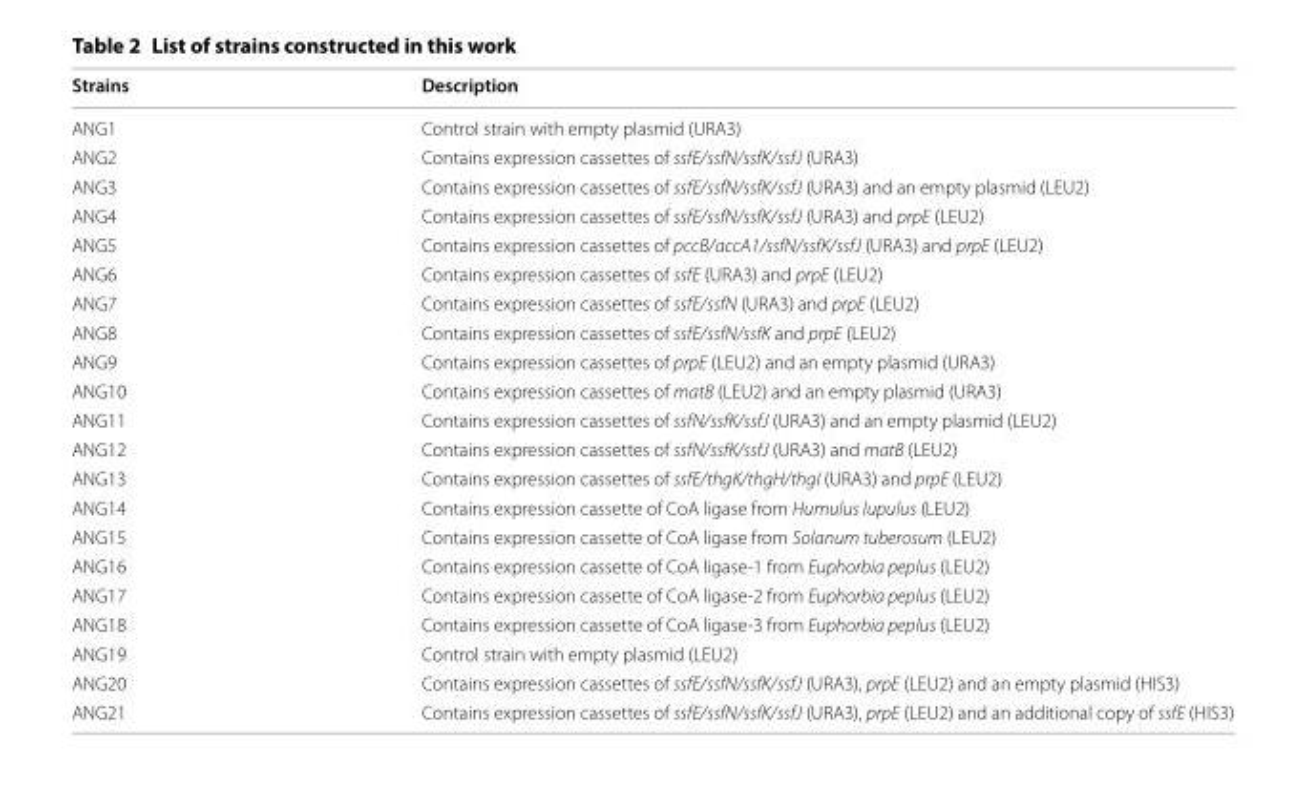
<table><thead><tr><td>Strains</td><td>Description</td></tr></thead><tbody><tr><td>ANG1</td><td>Control strain with empty plasmid (URA3)</td></tr><tr><td>ANG2</td><td>Contains expression cassettes of ssfE/ssfN/ssfK/ssfJ (URA3)</td></tr><tr><td>ANG3</td><td>Contains expression cassettes of ssfE/ssfN/ssfK/ssfJ (URA3) and an empty plasmid (LEU2)</td></tr><tr><td>ANG4</td><td>Contains expression cassettes of ssfE/ssfN/ssfK/ssfJ (URA3) and prpE (LEU2)</td></tr><tr><td>ANG5</td><td>Contains expression cassettes of pccB/accA1/ssfN/ssfK/ssfJ (URA3) and prpE (LEU2)</td></tr><tr><td>ANG6</td><td>Contains expression cassettes of ssfE (URA3) and prpE (LEU2)</td></tr><tr><td>ANG7</td><td>Contains expression cassettes of ssfE/ssfN (URA3) and prpE (LEU2)</td></tr><tr><td>ANG8</td><td>Contains expression cassettes of ssfE/ssfN/ssfK and prpE (LEU2)</td></tr><tr><td>ANG9</td><td>Contains expression cassettes of prpE (LEU2) and an empty plasmid (URA3)</td></tr><tr><td>ANG10</td><td>Contains expression cassettes of matB (LEU2) and an empty plasmid (URA3)</td></tr><tr><td>ANG11</td><td>Contains expression cassettes of ssfN/ssfK/ssfJ (URA3) and an empty plasmid (LEU2)</td></tr><tr><td>ANG12</td><td>Contains expression cassettes of ssfN/ssfK/ssfJ (URA3) and matB (LEU2)</td></tr><tr><td>ANG13</td><td>Contains expression cassettes of ssfE/thgK/thgH/thgI (URA3) and prpE (LEU2)</td></tr><tr><td>ANG14</td><td>Contains expression cassette of CoA ligase from Humulus lupulus (LEU2)</td></tr><tr><td>ANG15</td><td>Contains expression cassette of CoA ligase from Solanum tuberosum (LEU2)</td></tr><tr><td>ANG16</td><td>Contains expression cassette of CoA ligase-1 from Euphorbia peplus (LEU2)</td></tr><tr><td>ANG17</td><td>Contains expression cassette of CoA ligase-2 from Euphorbia peplus (LEU2)</td></tr><tr><td>ANG18</td><td>Contains expression cassette of CoA ligase-3 from Euphorbia peplus (LEU2)</td></tr><tr><td>ANG19</td><td>Control strain with empty plasmid (LEU2)</td></tr><tr><td>ANG20</td><td>Contains expression cassettes of ssfE/ssfN/ssfK/ssfJ (URA3), prpE (LEU2) and an empty plasmid (HIS3)</td></tr><tr><td>ANG21</td><td>Contains expression cassettes of ssfE/ssfN/ssfK/ssfJ (URA3), prpE (LEU2) and an additional copy of ssfE (HIS3)</td></tr></tbody></table>